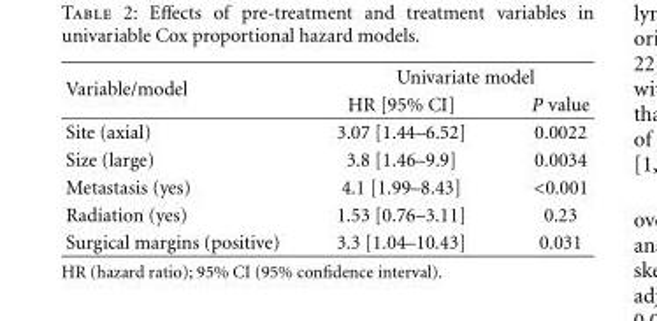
<table><thead><tr><td rowspan="2">Variable/model</td><td colspan="2">Univariate model</td></tr><tr><td>HR [95% CI]</td><td>P value</td></tr></thead><tbody><tr><td>Site (axial)</td><td>3.07 [1.44–6.52]</td><td>0.0022</td></tr><tr><td>Size (large)</td><td>3.8 [1.46–9.9]</td><td>0.0034</td></tr><tr><td>Metastasis (yes)</td><td>4.1 [1.99–8.43]</td><td>&lt;0.001</td></tr><tr><td>Radiation (yes)</td><td>1.53 [0.76–3.11]</td><td>0.23</td></tr><tr><td>Surgical margins (positive)</td><td>3.3 [1.04–10.43]</td><td>0.031</td></tr></tbody></table>